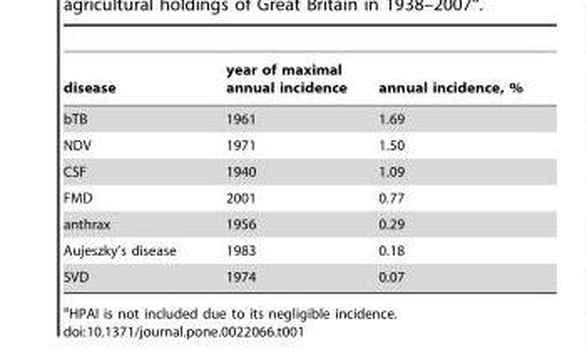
<table><thead><tr><td>disease</td><td>year of maximal annual incidence</td><td>annual incidence, %</td></tr></thead><tbody><tr><td>bTB</td><td>1961</td><td>1.69</td></tr><tr><td>NDV</td><td>1971</td><td>1.50</td></tr><tr><td>CSF</td><td>1940</td><td>1.09</td></tr><tr><td>FMD</td><td>2001</td><td>0.77</td></tr><tr><td>anthrax</td><td>1956</td><td>0.29</td></tr><tr><td>Aujeszky’s disease</td><td>1983</td><td>0.18</td></tr><tr><td>SVD</td><td>1974</td><td>0.07</td></tr></tbody></table>